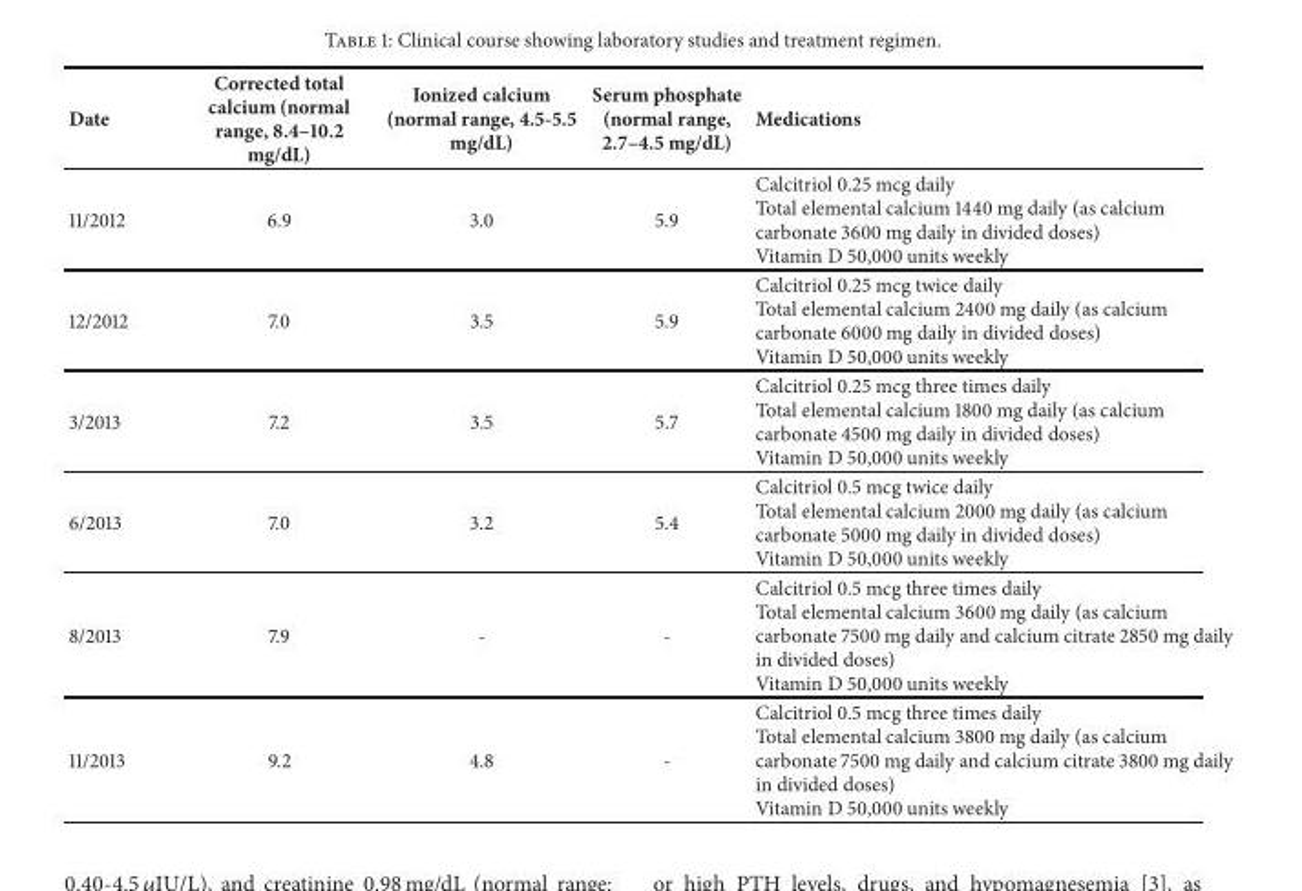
<table><thead><tr><td>Date</td><td>Corrected total calcium (normal range, 8.4–10.2 mg/dL)</td><td>Ionized calcium (normal range, 4.5-5.5 mg/dL)</td><td>Serum phosphate (normal range, 2.7–4.5 mg/dL)</td><td>Medications</td></tr></thead><tbody><tr><td>11/2012</td><td>6.9</td><td>3.0</td><td>5.9</td><td>Calcitriol 0.25 mcg daily Total elemental calcium 1440 mg daily (as calcium carbonate 3600 mg daily in divided doses) Vitamin D 50,000 units weekly</td></tr><tr><td>12/2012</td><td>7.0</td><td>3.5</td><td>5.9</td><td>Calcitriol 0.25 mcg twice daily Total elemental calcium 2400 mg daily (as calcium carbonate 6000 mg daily in divided doses) Vitamin D 50,000 units weekly</td></tr><tr><td>3/2013</td><td>7.2</td><td>3.5</td><td>5.7</td><td>Calcitriol 0.25 mcg three times daily Total elemental calcium 1800 mg daily (as calcium carbonate 4500 mg daily in divided doses) Vitamin D 50,000 units weekly</td></tr><tr><td>6/2013</td><td>7.0</td><td>3.2</td><td>5.4</td><td>Calcitriol 0.5 mcg twice daily Total elemental calcium 2000 mg daily (as calcium carbonate 5000 mg daily in divided doses) Vitamin D 50,000 units weekly</td></tr><tr><td>8/2013</td><td>7.9</td><td>-</td><td>-</td><td>Calcitriol 0.5 mcg three times daily Total elemental calcium 3600 mg daily (as calcium carbonate 7500 mg daily and calcium citrate 2850 mg daily in divided doses) Vitamin D 50,000 units weekly</td></tr><tr><td>11/2013</td><td>9.2</td><td>4.8</td><td>-</td><td>Calcitriol 0.5 mcg three times daily Total elemental calcium 3800 mg daily (as calcium carbonate 7500 mg daily and calcium citrate 3800 mg daily in divided doses) Vitamin D 50,000 units weekly</td></tr></tbody></table>